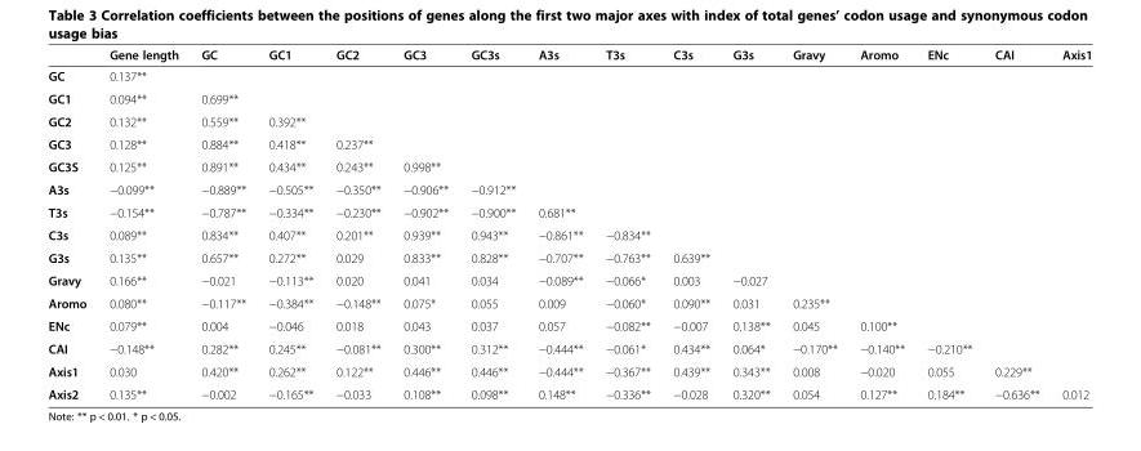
<table><thead><tr><td></td><td>Gene length</td><td>GC</td><td>GC1</td><td>GC2</td><td>GC3</td><td>GC3s</td><td>A3s</td><td>T3s</td><td>C3s</td><td>G3s</td><td>Gravy</td><td>Aromo</td><td>ENc</td><td>CAI</td><td>Axis1</td></tr></thead><tbody><tr><td>GC</td><td>0.137**</td><td></td><td></td><td></td><td></td><td></td><td></td><td></td><td></td><td></td><td></td><td></td><td></td><td></td><td></td></tr><tr><td>GC1</td><td>0.094**</td><td>0.699**</td><td></td><td></td><td></td><td></td><td></td><td></td><td></td><td></td><td></td><td></td><td></td><td></td><td></td></tr><tr><td>GC2</td><td>0.132**</td><td>0.559**</td><td>0.392**</td><td></td><td></td><td></td><td></td><td></td><td></td><td></td><td></td><td></td><td></td><td></td><td></td></tr><tr><td>GC3</td><td>0.128**</td><td>0.884**</td><td>0.418**</td><td>0.237**</td><td></td><td></td><td></td><td></td><td></td><td></td><td></td><td></td><td></td><td></td><td></td></tr><tr><td>GC3S</td><td>0.125**</td><td>0.891**</td><td>0.434**</td><td>0.243**</td><td>0.998**</td><td></td><td></td><td></td><td></td><td></td><td></td><td></td><td></td><td></td><td></td></tr><tr><td>A3s</td><td>−0.099**</td><td>−0.889**</td><td>−0.505**</td><td>−0.350**</td><td>−0.906**</td><td>−0.912**</td><td></td><td></td><td></td><td></td><td></td><td></td><td></td><td></td><td></td></tr><tr><td>T3s</td><td>−0.154**</td><td>−0.787**</td><td>−0.334**</td><td>−0.230**</td><td>−0.902**</td><td>−0.900**</td><td>0.681**</td><td></td><td></td><td></td><td></td><td></td><td></td><td></td><td></td></tr><tr><td>C3s</td><td>0.089**</td><td>0.834**</td><td>0.407**</td><td>0.201**</td><td>0.939**</td><td>0.943**</td><td>−0.861**</td><td>−0.834**</td><td></td><td></td><td></td><td></td><td></td><td></td><td></td></tr><tr><td>G3s</td><td>0.135**</td><td>0.657**</td><td>0.272**</td><td>0.029</td><td>0.833**</td><td>0.828**</td><td>−0.707**</td><td>−0.763**</td><td>0.639**</td><td></td><td></td><td></td><td></td><td></td><td></td></tr><tr><td>Gravy</td><td>0.166**</td><td>−0.021</td><td>−0.113**</td><td>0.020</td><td>0.041</td><td>0.034</td><td>−0.089**</td><td>−0.066*</td><td>0.003</td><td>−0.027</td><td></td><td></td><td></td><td></td><td></td></tr><tr><td>Aromo</td><td>0.080**</td><td>−0.117**</td><td>−0.384**</td><td>−0.148**</td><td>0.075*</td><td>0.055</td><td>0.009</td><td>−0.060*</td><td>0.090**</td><td>0.031</td><td>0.235**</td><td></td><td></td><td></td><td></td></tr><tr><td>ENc</td><td>0.079**</td><td>0.004</td><td>−0.046</td><td>0.018</td><td>0.043</td><td>0.037</td><td>0.057</td><td>−0.082**</td><td>−0.007</td><td>0.138**</td><td>0.045</td><td>0.100**</td><td></td><td></td><td></td></tr><tr><td>CAI</td><td>−0.148**</td><td>0.282**</td><td>0.245**</td><td>−0.081**</td><td>0.300**</td><td>0.312**</td><td>−0.444**</td><td>−0.061*</td><td>0.434**</td><td>0.064*</td><td>−0.170**</td><td>−0.140**</td><td>−0.210**</td><td></td><td></td></tr><tr><td>Axis1</td><td>0.030</td><td>0.420**</td><td>0.262**</td><td>0.122**</td><td>0.446**</td><td>0.446**</td><td>−0.444**</td><td>−0.367**</td><td>0.439**</td><td>0.343**</td><td>0.008</td><td>−0.020</td><td>0.055</td><td>0.229**</td><td></td></tr><tr><td>Axis2</td><td>0.135**</td><td>−0.002</td><td>−0.165**</td><td>−0.033</td><td>0.108**</td><td>0.098**</td><td>0.148**</td><td>−0.336**</td><td>−0.028</td><td>0.320**</td><td>0.054</td><td>0.127**</td><td>0.184**</td><td>−0.636**</td><td>0.012</td></tr></tbody></table>